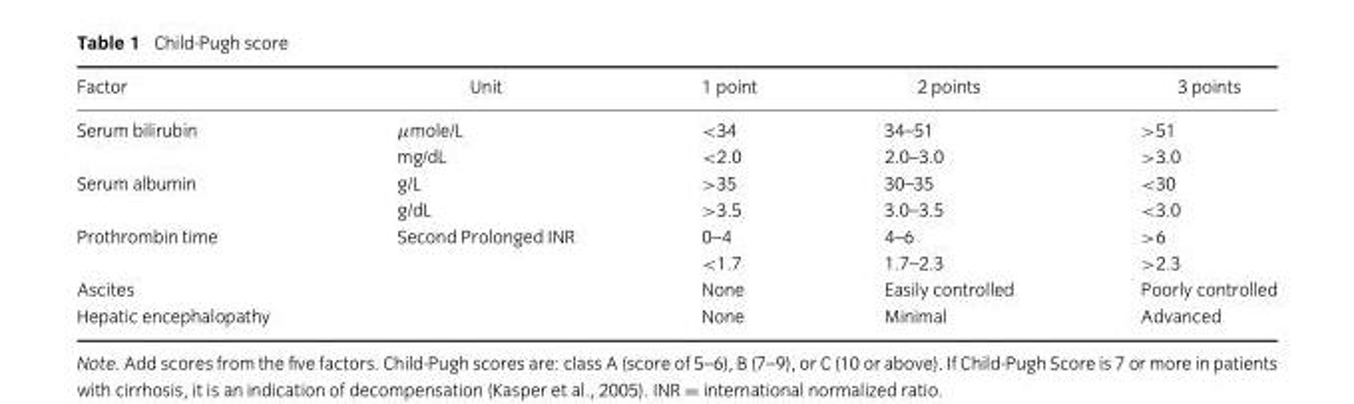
<table><thead><tr><td>Factor</td><td>Unit</td><td>1 point</td><td>2 points</td><td>3 points</td></tr></thead><tbody><tr><td rowspan="2">Serum bilirubin</td><td>μmole/L</td><td>&lt;34</td><td>34–51</td><td>&gt;51</td></tr><tr><td>mg/dL</td><td>&lt;2.0</td><td>2.0–3.0</td><td>&gt;3.0</td></tr><tr><td rowspan="2">Serum albumin</td><td>g/L</td><td>&gt;35</td><td>30–35</td><td>&lt;30</td></tr><tr><td>g/dL</td><td>&gt;3.5</td><td>3.0–3.5</td><td>&lt;3.0</td></tr><tr><td rowspan="2">Prothrombin time</td><td>Second Prolonged INR</td><td>0–4</td><td>4–6</td><td>&gt;6</td></tr><tr><td></td><td>&lt;1.7</td><td>1.7–2.3</td><td>&gt;2.3</td></tr><tr><td>Ascites</td><td></td><td>None</td><td>Easily controlled</td><td>Poorly controlled</td></tr><tr><td>Hepatic encephalopathy</td><td></td><td>None</td><td>Minimal</td><td>Advanced</td></tr></tbody></table>